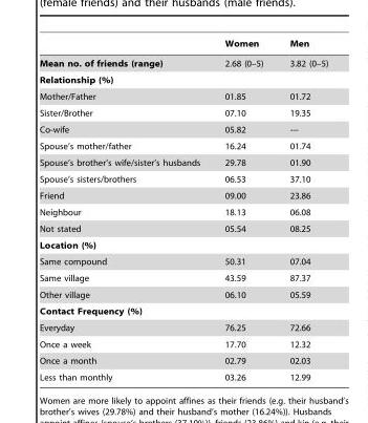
<table><thead><tr><td></td><td>Women</td><td>Men</td></tr></thead><tbody><tr><td>Mean no. of friends (range)</td><td>2.68 (0–5)</td><td>3.82 (0–5)</td></tr><tr><td colspan="3">Relationship (%)</td></tr><tr><td>Mother/Father</td><td>01.85</td><td>01.72</td></tr><tr><td>Sister/Brother</td><td>07.10</td><td>19.35</td></tr><tr><td>Co-wife</td><td>05.82</td><td>---</td></tr><tr><td>Spouse’s mother/father</td><td>16.24</td><td>01.74</td></tr><tr><td>Spouse’s brother’s wife/sister’s husbands</td><td>29.78</td><td>01.90</td></tr><tr><td>Spouse’s sisters/brothers</td><td>06.53</td><td>37.10</td></tr><tr><td>Friend</td><td>09.00</td><td>23.86</td></tr><tr><td>Neighbour</td><td>18.13</td><td>06.08</td></tr><tr><td>Not stated</td><td>05.54</td><td>08.25</td></tr><tr><td colspan="3">Location (%)</td></tr><tr><td>Same compound</td><td>50.31</td><td>07.04</td></tr><tr><td>Same village</td><td>43.59</td><td>87.37</td></tr><tr><td>Other village</td><td>06.10</td><td>05.59</td></tr><tr><td colspan="3">Contact Frequency (%)</td></tr><tr><td>Everyday</td><td>76.25</td><td>72.66</td></tr><tr><td>Once a week</td><td>17.70</td><td>12.32</td></tr><tr><td>Once a month</td><td>02.79</td><td>02.03</td></tr><tr><td>Less than monthly</td><td>03.26</td><td>12.99</td></tr></tbody></table>